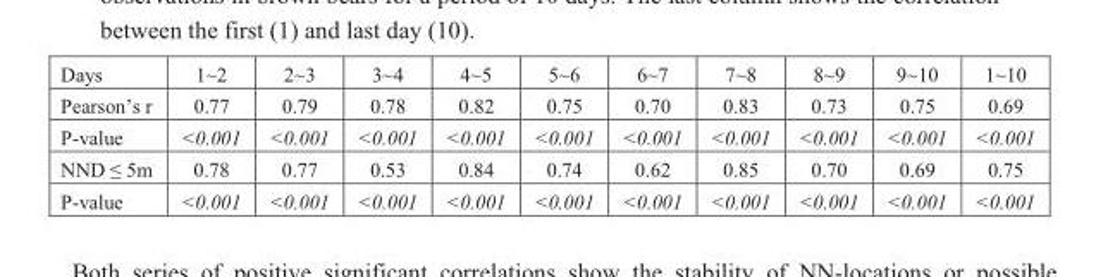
<table><tbody><tr><td>Days</td><td>1~2</td><td>2~3</td><td>3~4</td><td>4~5</td><td>5~6</td><td>6~7</td><td>7~8</td><td>8~9</td><td>9~10</td><td>1~10</td></tr><tr><td>Pearson’s r</td><td>0.77</td><td>0.79</td><td>0.78</td><td>0.82</td><td>0.75</td><td>0.70</td><td>0.83</td><td>0.73</td><td>0.75</td><td>0.69</td></tr><tr><td>P-value</td><td>&lt;0.001</td><td>&lt;0.001</td><td>&lt;0.001</td><td>&lt;0.001</td><td>&lt;0.001</td><td>&lt;0.001</td><td>&lt;0.001</td><td>&lt;0.001</td><td>&lt;0.001</td><td>&lt;0.001</td></tr><tr><td>NND ≤ 5m</td><td>0.78</td><td>0.77</td><td>0.53</td><td>0.84</td><td>0.74</td><td>0.62</td><td>0.85</td><td>0.70</td><td>0.69</td><td>0.75</td></tr><tr><td>P-value</td><td>&lt;0.001</td><td>&lt;0.001</td><td>&lt;0.001</td><td>&lt;0.001</td><td>&lt;0.001</td><td>&lt;0.001</td><td>&lt;0.001</td><td>&lt;0.001</td><td>&lt;0.001</td><td>&lt;0.001</td></tr></tbody></table>